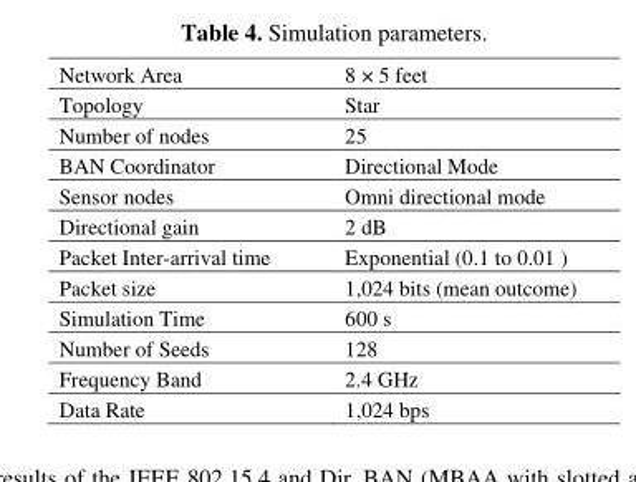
<table><tbody><tr><td>Network Area</td><td>8 × 5 feet</td></tr><tr><td>Topology</td><td>Star</td></tr><tr><td>Number of nodes</td><td>25</td></tr><tr><td>BAN Coordinator</td><td>Directional Mode</td></tr><tr><td>Sensor nodes</td><td>Omni directional mode</td></tr><tr><td>Directional gain</td><td>2 dB</td></tr><tr><td>Packet Inter-arrival time</td><td>Exponential (0.1 to 0.01 )</td></tr><tr><td>Packet size</td><td>1,024 bits (mean outcome)</td></tr><tr><td>Simulation Time</td><td>600 s</td></tr><tr><td>Number of Seeds</td><td>128</td></tr><tr><td>Frequency Band</td><td>2.4 GHz</td></tr><tr><td>Data Rate</td><td>1,024 bps</td></tr></tbody></table>